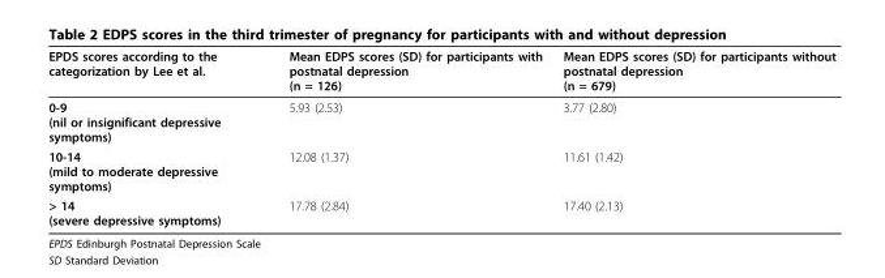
<table><thead><tr><td>EPDS scores according to the categorization by Lee et al.</td><td>Mean EDPS scores (SD) for participants with postnatal depression (n = 126)</td><td>Mean EDPS scores (SD) for participants without postnatal depression (n = 679)</td></tr></thead><tbody><tr><td>0-9 (nil or insignificant depressive symptoms)</td><td>5.93 (2.53)</td><td>3.77 (2.80)</td></tr><tr><td>10-14 (mild to moderate depressive symptoms)</td><td>12.08 (1.37)</td><td>11.61 (1.42)</td></tr><tr><td>&gt; 14 (severe depressive symptoms)</td><td>17.78 (2.84)</td><td>17.40 (2.13)</td></tr></tbody></table>